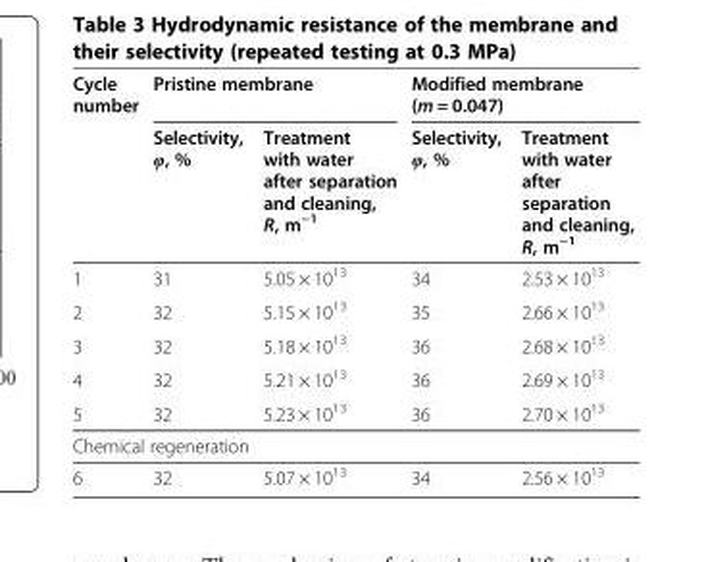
<table><thead><tr><td rowspan="2">Cycle number</td><td colspan="2">Pristine membrane</td><td colspan="2">Modified membrane (m = 0.047)</td></tr><tr><td>Selectivity, φ, %</td><td>Treatment with water after separation and cleaning, R, m<sup>−1</sup></td><td>Selectivity, φ, %</td><td>Treatment with water after separation and cleaning, R, m<sup>−1</sup></td></tr></thead><tbody><tr><td>1</td><td>31</td><td>5.05 × 10<sup>13</sup></td><td>34</td><td>2.53 × 10<sup>13</sup></td></tr><tr><td>2</td><td>32</td><td>5.15 × 10<sup>13</sup></td><td>35</td><td>2.66 × 10<sup>13</sup></td></tr><tr><td>3</td><td>32</td><td>5.18 × 10<sup>13</sup></td><td>36</td><td>2.68 × 10<sup>13</sup></td></tr><tr><td>4</td><td>32</td><td>5.21 × 10<sup>13</sup></td><td>36</td><td>2.69 × 10<sup>13</sup></td></tr><tr><td>5</td><td>32</td><td>5.23 × 10<sup>13</sup></td><td>36</td><td>2.70 × 10<sup>13</sup></td></tr><tr><td colspan="5">Chemical regeneration</td></tr><tr><td>6</td><td>32</td><td>5.07 × 10<sup>13</sup></td><td>34</td><td>2.56 × 10<sup>13</sup></td></tr></tbody></table>